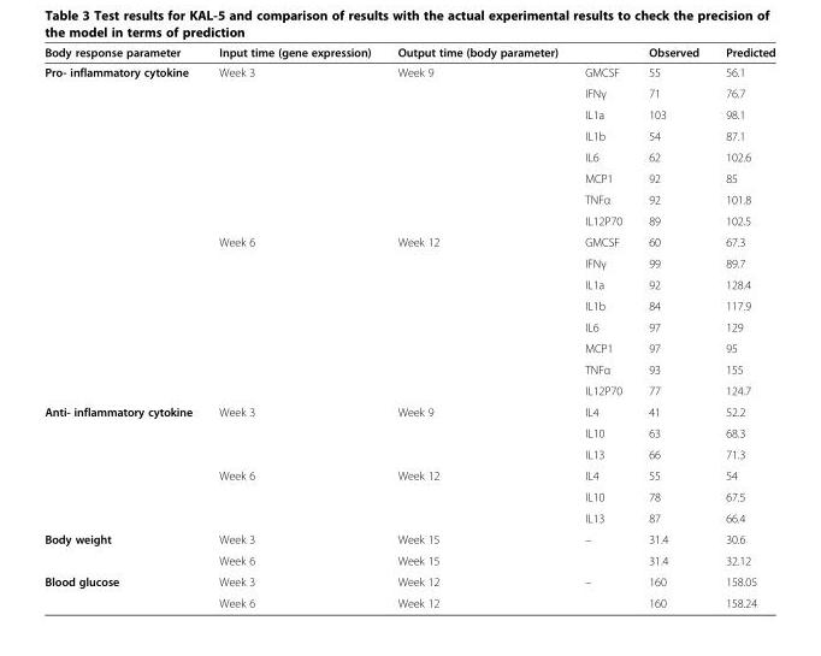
<table><thead><tr><td>Body response parameter</td><td>Input time (gene expression)</td><td>Output time (body parameter)</td><td></td><td>Observed</td><td>Predicted</td></tr></thead><tbody><tr><td rowspan="16">Pro- inflammatory cytokine</td><td rowspan="8">Week 3</td><td rowspan="8">Week 9</td><td>GMCSF</td><td>55</td><td>56.1</td></tr><tr><td>IFNγ</td><td>71</td><td>76.7</td></tr><tr><td>IL1a</td><td>103</td><td>98.1</td></tr><tr><td>IL1b</td><td>54</td><td>87.1</td></tr><tr><td>IL6</td><td>62</td><td>102.6</td></tr><tr><td>MCP1</td><td>92</td><td>85</td></tr><tr><td>TNFα</td><td>92</td><td>101.8</td></tr><tr><td>IL12P70</td><td>89</td><td>102.5</td></tr><tr><td rowspan="8">Week 6</td><td rowspan="8">Week 12</td><td>GMCSF</td><td>60</td><td>67.3</td></tr><tr><td>IFNγ</td><td>99</td><td>89.7</td></tr><tr><td>IL1a</td><td>92</td><td>128.4</td></tr><tr><td>IL1b</td><td>84</td><td>117.9</td></tr><tr><td>IL6</td><td>97</td><td>129</td></tr><tr><td>MCP1</td><td>97</td><td>95</td></tr><tr><td>TNFα</td><td>93</td><td>155</td></tr><tr><td>IL12P70</td><td>77</td><td>124.7</td></tr><tr><td rowspan="6">Anti- inflammatory cytokine</td><td rowspan="3">Week 3</td><td rowspan="3">Week 9</td><td>IL4</td><td>41</td><td>52.2</td></tr><tr><td>IL10</td><td>63</td><td>68.3</td></tr><tr><td>IL13</td><td>66</td><td>71.3</td></tr><tr><td rowspan="3">Week 6</td><td rowspan="3">Week 12</td><td>IL4</td><td>55</td><td>54</td></tr><tr><td>IL10</td><td>78</td><td>67.5</td></tr><tr><td>IL13</td><td>87</td><td>66.4</td></tr><tr><td rowspan="2">Body weight</td><td>Week 3</td><td>Week 15</td><td rowspan="2">–</td><td>31.4</td><td>30.6</td></tr><tr><td>Week 6</td><td>Week 15</td><td>31.4</td><td>32.12</td></tr><tr><td rowspan="2">Blood glucose</td><td>Week 3</td><td>Week 12</td><td rowspan="2">–</td><td>160</td><td>158.05</td></tr><tr><td>Week 6</td><td>Week 12</td><td>160</td><td>158.24</td></tr></tbody></table>